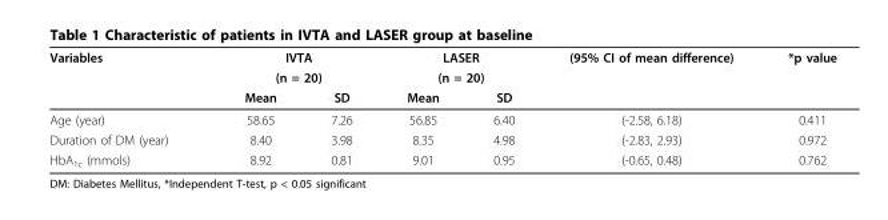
<table><thead><tr><td rowspan="3">Variables</td><td rowspan="2" colspan="2">IVTA (n = 20)</td><td rowspan="2" colspan="2">LASER (n = 20)</td><td rowspan="3">(95% CI of mean difference)</td><td rowspan="3">*p value</td></tr><tr></tr><tr><td>Mean</td><td>SD</td><td>Mean</td><td>SD</td></tr></thead><tbody><tr><td>Age (year)</td><td>58.65</td><td>7.26</td><td>56.85</td><td>6.40</td><td>(-2.58, 6.18)</td><td>0.411</td></tr><tr><td>Duration of DM (year)</td><td>8.40</td><td>3.98</td><td>8.35</td><td>4.98</td><td>(-2.83, 2.93)</td><td>0.972</td></tr><tr><td>HbA<sub>1c</sub> (mmols)</td><td>8.92</td><td>0.81</td><td>9.01</td><td>0.95</td><td>(-0.65, 0.48)</td><td>0.762</td></tr></tbody></table>